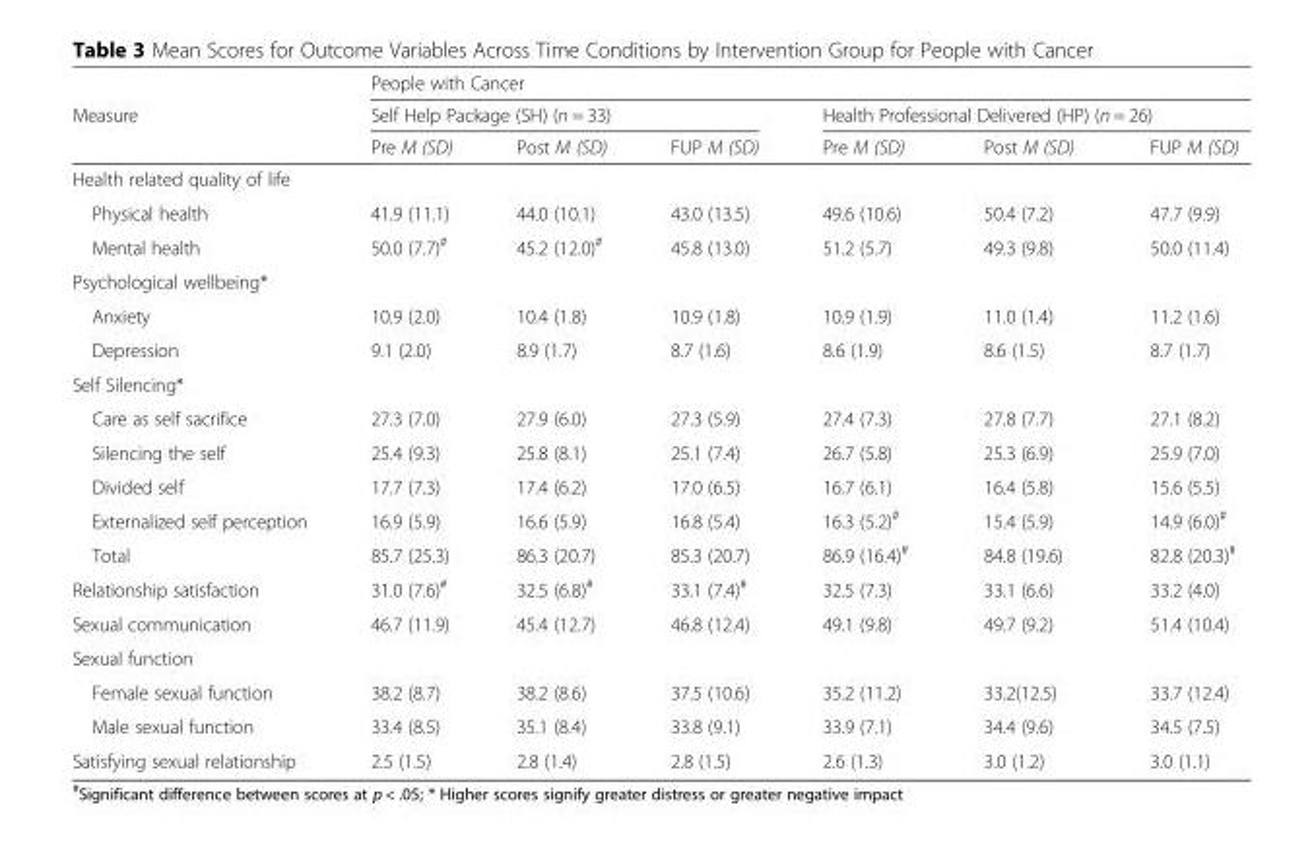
<table><thead><tr><td rowspan="3">Measure</td><td colspan="6">People with Cancer</td></tr><tr><td colspan="3">Self Help Package (SH) (n = 33)</td><td colspan="3">Health Professional Delivered (HP) (n = 26)</td></tr><tr><td>Pre M (SD)</td><td>Post M (SD)</td><td>FUP M (SD)</td><td>Pre M (SD)</td><td>Post M (SD)</td><td>FUP M (SD)</td></tr></thead><tbody><tr><td colspan="7">Health related quality of life</td></tr><tr><td>Physical health</td><td>41.9 (11.1)</td><td>44.0 (10.1)</td><td>43.0 (13.5)</td><td>49.6 (10.6)</td><td>50.4 (7.2)</td><td>47.7 (9.9)</td></tr><tr><td>Mental health</td><td>50.0 (7.7)<sup>#</sup></td><td>45.2 (12.0)<sup>#</sup></td><td>45.8 (13.0)</td><td>51.2 (5.7)</td><td>49.3 (9.8)</td><td>50.0 (11.4)</td></tr><tr><td colspan="7">Psychological wellbeing*</td></tr><tr><td>Anxiety</td><td>10.9 (2.0)</td><td>10.4 (1.8)</td><td>10.9 (1.8)</td><td>10.9 (1.9)</td><td>11.0 (1.4)</td><td>11.2 (1.6)</td></tr><tr><td>Depression</td><td>9.1 (2.0)</td><td>8.9 (1.7)</td><td>8.7 (1.6)</td><td>8.6 (1.9)</td><td>8.6 (1.5)</td><td>8.7 (1.7)</td></tr><tr><td colspan="7">Self Silencing*</td></tr><tr><td>Care as self sacrifice</td><td>27.3 (7.0)</td><td>27.9 (6.0)</td><td>27.3 (5.9)</td><td>27.4 (7.3)</td><td>27.8 (7.7)</td><td>27.1 (8.2)</td></tr><tr><td>Silencing the self</td><td>25.4 (9.3)</td><td>25.8 (8.1)</td><td>25.1 (7.4)</td><td>26.7 (5.8)</td><td>25.3 (6.9)</td><td>25.9 (7.0)</td></tr><tr><td>Divided self</td><td>17.7 (7.3)</td><td>17.4 (6.2)</td><td>17.0 (6.5)</td><td>16.7 (6.1)</td><td>16.4 (5.8)</td><td>15.6 (5.5)</td></tr><tr><td>Externalized self perception</td><td>16.9 (5.9)</td><td>16.6 (5.9)</td><td>16.8 (5.4)</td><td>16.3 (5.2)<sup>#</sup></td><td>15.4 (5.9)</td><td>14.9 (6.0)<sup>#</sup></td></tr><tr><td>Total</td><td>85.7 (25.3)</td><td>86.3 (20.7)</td><td>85.3 (20.7)</td><td>86.9 (16.4)<sup>#</sup></td><td>84.8 (19.6)</td><td>82.8 (20.3)<sup>#</sup></td></tr><tr><td>Relationship satisfaction</td><td>31.0 (7.6)<sup>#</sup></td><td>32.5 (6.8)<sup>#</sup></td><td>33.1 (7.4)<sup>#</sup></td><td>32.5 (7.3)</td><td>33.1 (6.6)</td><td>33.2 (4.0)</td></tr><tr><td>Sexual communication</td><td>46.7 (11.9)</td><td>45.4 (12.7)</td><td>46.8 (12.4)</td><td>49.1 (9.8)</td><td>49.7 (9.2)</td><td>51.4 (10.4)</td></tr><tr><td colspan="7">Sexual function</td></tr><tr><td>Female sexual function</td><td>38.2 (8.7)</td><td>38.2 (8.6)</td><td>37.5 (10.6)</td><td>35.2 (11.2)</td><td>33.2(12.5)</td><td>33.7 (12.4)</td></tr><tr><td>Male sexual function</td><td>33.4 (8.5)</td><td>35.1 (8.4)</td><td>33.8 (9.1)</td><td>33.9 (7.1)</td><td>34.4 (9.6)</td><td>34.5 (7.5)</td></tr><tr><td>Satisfying sexual relationship</td><td>2.5 (1.5)</td><td>2.8 (1.4)</td><td>2.8 (1.5)</td><td>2.6 (1.3)</td><td>3.0 (1.2)</td><td>3.0 (1.1)</td></tr></tbody></table>